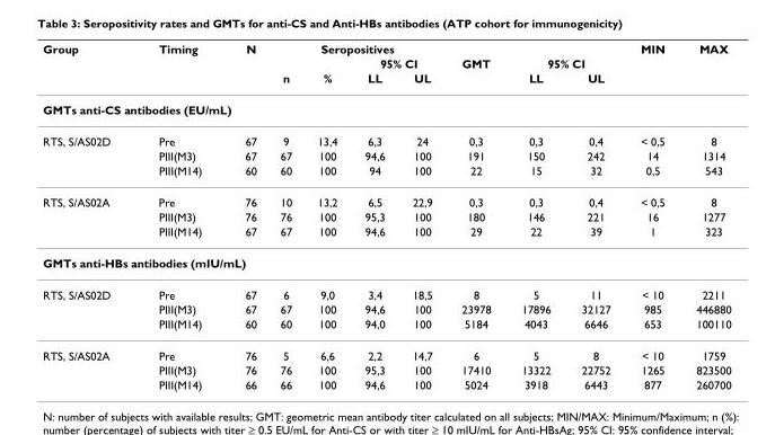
<table><thead><tr><td rowspan="3">Group</td><td rowspan="3">Timing</td><td rowspan="3">N</td><td colspan="4">Seropositives</td><td rowspan="3">GMT</td><td></td><td></td><td rowspan="3">MIN</td><td rowspan="3">MAX</td></tr><tr><td rowspan="2">n</td><td rowspan="2">%</td><td colspan="2">95% CI</td><td colspan="2">95% CI</td></tr><tr><td>LL</td><td>UL</td><td>LL</td><td>UL</td></tr></thead><tbody><tr><td colspan="12">GMTs anti-CS antibodies (EU/mL)</td></tr><tr><td rowspan="3">RTS, S/AS02D</td><td>Pre</td><td>67</td><td>9</td><td>13,4</td><td>6,3</td><td>24</td><td>0,3</td><td>0,3</td><td>0,4</td><td>&lt; 0,5</td><td>8</td></tr><tr><td>PIII(M3)</td><td>67</td><td>67</td><td>100</td><td>94,6</td><td>100</td><td>191</td><td>150</td><td>242</td><td>14</td><td>1314</td></tr><tr><td>PIII(M14)</td><td>60</td><td>60</td><td>100</td><td>94</td><td>100</td><td>22</td><td>15</td><td>32</td><td>0,5</td><td>543</td></tr><tr><td rowspan="3">RTS, S/AS02A</td><td>Pre</td><td>76</td><td>10</td><td>13,2</td><td>6,5</td><td>22,9</td><td>0,3</td><td>0,3</td><td>0,4</td><td>&lt; 0,5</td><td>8</td></tr><tr><td>PIII(M3)</td><td>76</td><td>76</td><td>100</td><td>95,3</td><td>100</td><td>180</td><td>146</td><td>221</td><td>16</td><td>1277</td></tr><tr><td>PIII(M14)</td><td>67</td><td>67</td><td>100</td><td>94,6</td><td>100</td><td>29</td><td>22</td><td>39</td><td>1</td><td>323</td></tr><tr><td colspan="12">GMTs anti-HBs antibodies (mIU/mL)</td></tr><tr><td rowspan="3">RTS, S/AS02D</td><td>Pre</td><td>67</td><td>6</td><td>9,0</td><td>3,4</td><td>18,5</td><td>8</td><td>5</td><td>11</td><td>&lt; 10</td><td>2211</td></tr><tr><td>PIII(M3)</td><td>67</td><td>67</td><td>100</td><td>94,6</td><td>100</td><td>23978</td><td>17896</td><td>32127</td><td>985</td><td>446880</td></tr><tr><td>PIII(M14)</td><td>60</td><td>60</td><td>100</td><td>94,0</td><td>100</td><td>5184</td><td>4043</td><td>6646</td><td>653</td><td>100110</td></tr><tr><td rowspan="3">RTS, S/AS02A</td><td>Pre</td><td>76</td><td>5</td><td>6,6</td><td>2,2</td><td>14,7</td><td>6</td><td>5</td><td>8</td><td>&lt; 10</td><td>1759</td></tr><tr><td>PIII(M3)</td><td>76</td><td>76</td><td>100</td><td>95,3</td><td>100</td><td>17410</td><td>13322</td><td>22752</td><td>1265</td><td>823500</td></tr><tr><td>PIII(M14)</td><td>66</td><td>66</td><td>100</td><td>94,6</td><td>100</td><td>5024</td><td>3918</td><td>6443</td><td>877</td><td>260700</td></tr></tbody></table>